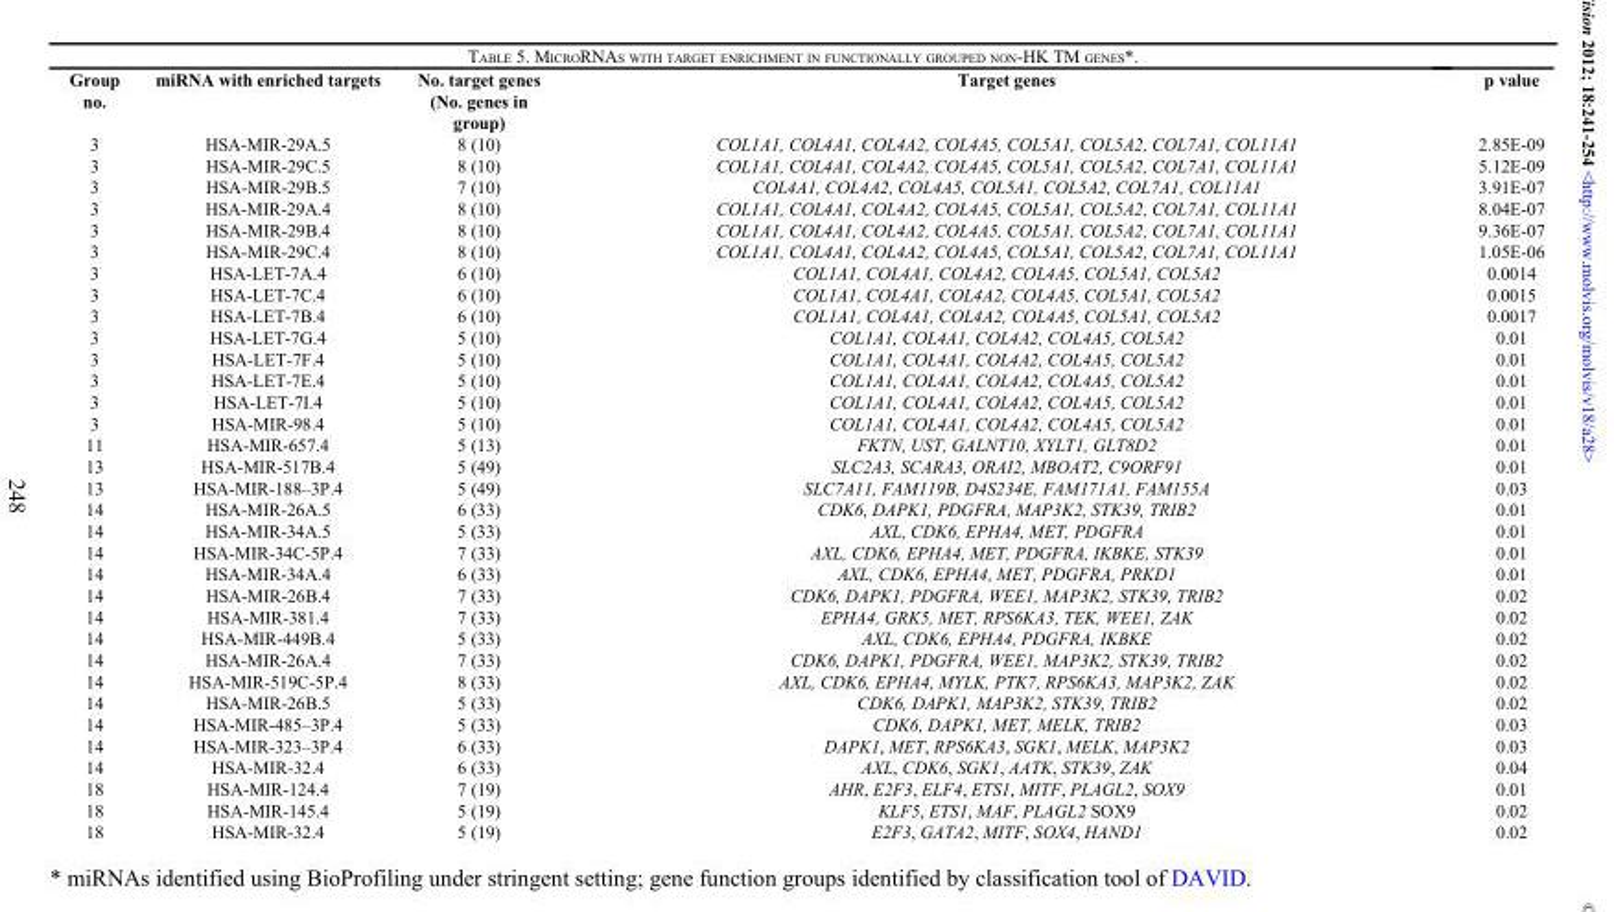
<table><thead><tr><td>Group no.</td><td>miRNA with enriched targets</td><td>No. target genes (No. genes in group)</td><td>Target genes</td><td>p value</td></tr></thead><tbody><tr><td>3</td><td>HSA-MIR-29A.5</td><td>8 (10)</td><td>COL1A1, COL4A1, COL4A2, COL4A5, COL5A1, COL5A2, COL7A1, COL11A1</td><td>2.85E-09</td></tr><tr><td>3</td><td>HSA-MIR-29C.5</td><td>8 (10)</td><td>COL1A1, COL4A1, COL4A2, COL4A5, COL5A1, COL5A2, COL7A1, COL11A1</td><td>5.12E-09</td></tr><tr><td>3</td><td>HSA-MIR-29B.5</td><td>7 (10)</td><td>COL4A1, COL4A2, COL4A5, COL5A1, COL5A2, COL7A1, COL11A1</td><td>3.91E-07</td></tr><tr><td>3</td><td>HSA-MIR-29A.4</td><td>8 (10)</td><td>COL1A1, COL4A1, COL4A2, COL4A5, COL5A1, COL5A2, COL7A1, COL11A1</td><td>8.04E-07</td></tr><tr><td>3</td><td>HSA-MIR-29B.4</td><td>8 (10)</td><td>COL1A1, COL4A1, COL4A2, COL4A5, COL5A1, COL5A2, COL7A1, COL11A1</td><td>9.36E-07</td></tr><tr><td>3</td><td>HSA-MIR-29C.4</td><td>8 (10)</td><td>COL1A1, COL4A1, COL4A2, COL4A5, COL5A1, COL5A2, COL7A1, COL11A1</td><td>1.05E-06</td></tr><tr><td>3</td><td>HSA-LET-7A.4</td><td>6 (10)</td><td>COL1A1, COL4A1, COL4A2, COL4A5, COL5A1, COL5A2</td><td>0.0014</td></tr><tr><td>3</td><td>HSA-LET-7C.4</td><td>6 (10)</td><td>COL1A1, COL4A1, COL4A2, COL4A5, COL5A1, COL5A2</td><td>0.0015</td></tr><tr><td>3</td><td>HSA-LET-7B.4</td><td>6 (10)</td><td>COL1A1, COL4A1, COL4A2, COL4A5, COL5A1, COL5A2</td><td>0.0017</td></tr><tr><td>3</td><td>HSA-LET-7G.4</td><td>5 (10)</td><td>COL1A1, COL4A1, COL4A2, COL4A5, COL5A2</td><td>0.01</td></tr><tr><td>3</td><td>HSA-LET-7F.4</td><td>5 (10)</td><td>COL1A1, COL4A1, COL4A2, COL4A5, COL5A2</td><td>0.01</td></tr><tr><td>3</td><td>HSA-LET-7E.4</td><td>5 (10)</td><td>COL1A1, COL4A1, COL4A2, COL4A5, COL5A2</td><td>0.01</td></tr><tr><td>3</td><td>HSA-LET-7I.4</td><td>5 (10)</td><td>COL1A1, COL4A1, COL4A2, COL4A5, COL5A2</td><td>0.01</td></tr><tr><td>3</td><td>HSA-MIR-98.4</td><td>5 (10)</td><td>COL1A1, COL4A1, COL4A2, COL4A5, COL5A2</td><td>0.01</td></tr><tr><td>11</td><td>HSA-MIR-657.4</td><td>5 (13)</td><td>FKTN, UST, GALNT10, XYLT1, GLT8D2</td><td>0.01</td></tr><tr><td>13</td><td>HSA-MIR-517B.4</td><td>5 (49)</td><td>SLC2A3, SCARA3, ORAI2, MBOAT2, C9ORF91</td><td>0.01</td></tr><tr><td>13</td><td>HSA-MIR-188–3P.4</td><td>5 (49)</td><td>SLC7A11, FAM119B, D4S234E, FAM171A1, FAM155A</td><td>0.03</td></tr><tr><td>14</td><td>HSA-MIR-26A.5</td><td>6 (33)</td><td>CDK6, DAPK1, PDGFRA, MAP3K2, STK39, TRIB2</td><td>0.01</td></tr><tr><td>14</td><td>HSA-MIR-34A.5</td><td>5 (33)</td><td>AXL, CDK6, EPHA4, MET, PDGFRA</td><td>0.01</td></tr><tr><td>14</td><td>HSA-MIR-34C-5P.4</td><td>7 (33)</td><td>AXL, CDK6, EPHA4, MET, PDGFRA, IKBKE, STK39</td><td>0.01</td></tr><tr><td>14</td><td>HSA-MIR-34A.4</td><td>6 (33)</td><td>AXL, CDK6, EPHA4, MET, PDGFRA, PRKD1</td><td>0.01</td></tr><tr><td>14</td><td>HSA-MIR-26B.4</td><td>7 (33)</td><td>CDK6, DAPK1, PDGFRA, WEE1, MAP3K2, STK39, TRIB2</td><td>0.02</td></tr><tr><td>14</td><td>HSA-MIR-381.4</td><td>7 (33)</td><td>EPHA4, GRK5, MET, RPS6KA3, TEK, WEE1, ZAK</td><td>0.02</td></tr><tr><td>14</td><td>HSA-MIR-449B.4</td><td>5 (33)</td><td>AXL, CDK6, EPHA4, PDGFRA, IKBKE</td><td>0.02</td></tr><tr><td>14</td><td>HSA-MIR-26A.4</td><td>7 (33)</td><td>CDK6, DAPK1, PDGFRA, WEE1, MAP3K2, STK39, TRIB2</td><td>0.02</td></tr><tr><td>14</td><td>HSA-MIR-519C-5P.4</td><td>8 (33)</td><td>AXL, CDK6, EPHA4, MYLK, PTK7, RPS6KA3, MAP3K2, ZAK</td><td>0.02</td></tr><tr><td>14</td><td>HSA-MIR-26B.5</td><td>5 (33)</td><td>CDK6, DAPK1, MAP3K2, STK39, TRIB2</td><td>0.02</td></tr><tr><td>14</td><td>HSA-MIR-485–3P.4</td><td>5 (33)</td><td>CDK6, DAPK1, MET, MELK, TRIB2</td><td>0.03</td></tr><tr><td>14</td><td>HSA-MIR-323–3P.4</td><td>6 (33)</td><td>DAPK1, MET, RPS6KA3, SGK1, MELK, MAP3K2</td><td>0.03</td></tr><tr><td>14</td><td>HSA-MIR-32.4</td><td>6 (33)</td><td>AXL, CDK6, SGK1, AATK, STK39, ZAK</td><td>0.04</td></tr><tr><td>18</td><td>HSA-MIR-124.4</td><td>7 (19)</td><td>AHR, E2F3, ELF4, ETS1, MITF, PLAGL2, SOX9</td><td>0.01</td></tr><tr><td>18</td><td>HSA-MIR-145.4</td><td>5 (19)</td><td>KLF5, ETS1, MAF, PLAGL2 SOX9</td><td>0.02</td></tr><tr><td>18</td><td>HSA-MIR-32.4</td><td>5 (19)</td><td>E2F3, GATA2, MITF, SOX4, HAND1</td><td>0.02</td></tr></tbody></table>